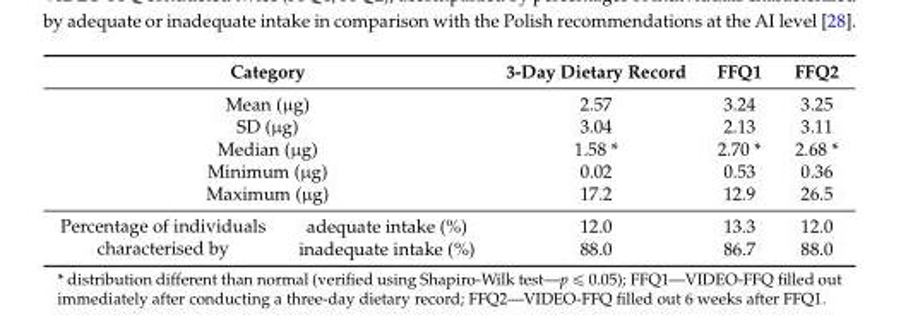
<table><thead><tr><td colspan="2">Category</td><td>3-Day Dietary Record</td><td>FFQ1</td><td>FFQ2</td></tr></thead><tbody><tr><td colspan="2">Mean (µg)</td><td>2.57</td><td>3.24</td><td>3.25</td></tr><tr><td colspan="2">SD (µg)</td><td>3.04</td><td>2.13</td><td>3.11</td></tr><tr><td colspan="2">Median (µg)</td><td>1.58 *</td><td>2.70 *</td><td>2.68 *</td></tr><tr><td colspan="2">Minimum (µg)</td><td>0.02</td><td>0.53</td><td>0.36</td></tr><tr><td colspan="2">Maximum (µg)</td><td>17.2</td><td>12.9</td><td>26.5</td></tr><tr><td rowspan="2">Percentage of individuals characterised by</td><td>adequate intake (%)</td><td>12.0</td><td>13.3</td><td>12.0</td></tr><tr><td>inadequate intake (%)</td><td>88.0</td><td>86.7</td><td>88.0</td></tr></tbody></table>